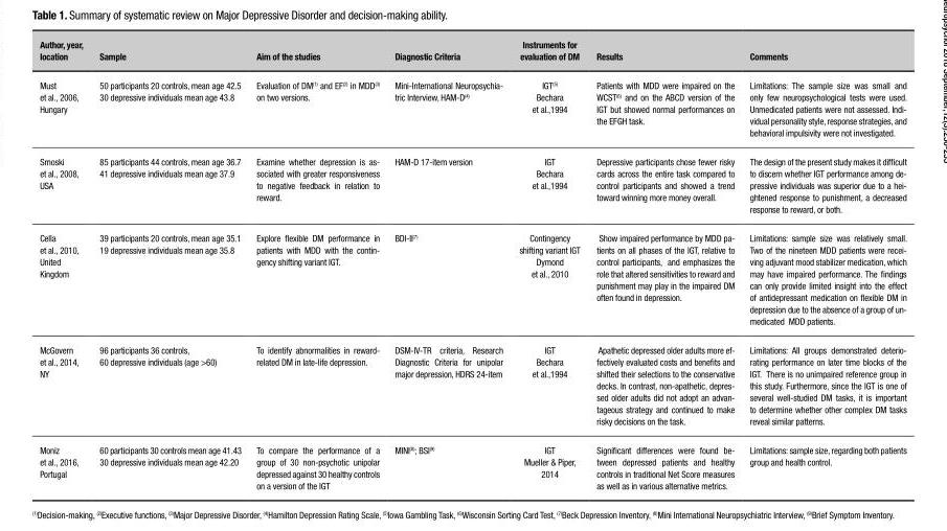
<table><thead><tr><td>Author, year, location</td><td>Sample</td><td>Aim of the studies</td><td>Diagnostic Criteria</td><td>Instruments for evaluation of DM</td><td>Results</td><td>Comments</td></tr></thead><tbody><tr><td>Must et al., 2006, Hungary</td><td>50 participants 20 controls, mean age 42.5 30 depressive individuals mean age 43.8</td><td>Evaluation of DM(1) and EF(2) in MDD(3) on two versions.</td><td>Mini-International Neuropsychia- tric Interview, HAM-D(4)</td><td>IGT(5) Bechara et al.,1994</td><td>Patients with MDD were impaired on the WCST(6) and on the ABCD version of the IGT but showed normal performances on the EFGH task.</td><td>Limitations: The sample size was small and only few neuropsychological tests were used. Unmedicated patients were not assessed. Indi- vidual personality style, response strategies, and behavioral impulsivity were not investigated.</td></tr><tr><td>Smoski et al., 2008, USA</td><td>85 participants 44 controls, mean age 36.7 41 depressive individuals mean age 37.9</td><td>Examine whether depression is as- sociated with greater responsiveness to negative feedback in relation to reward.</td><td>HAM-D 17-item version</td><td>IGT Bechara et al.,1994</td><td>Depressive participants chose fewer risky cards across the entire task compared to control participants and showed a trend toward winning more money overall.</td><td>The design of the present study makes it difficult to discern whether IGT performance among de- pressive individuals was superior due to a hei- ghtened response to punishment, a decreased response to reward, or both.</td></tr><tr><td>Cella et al., 2010, United Kingdom</td><td>39 participants 20 controls, mean age 35.1 19 depressive individuals mean age 35.8</td><td>Explore flexible DM performance in patients with MDD with the contin- gency shifting variant IGT.</td><td>BDI-II(7)</td><td>Contingency shifting variant IGT Dymond et al., 2010</td><td>Show impaired performance by MDD pa- tients on all phases of the IGT, relative to control participants, and emphasizes the role that altered sensitivities to reward and punishment may play in the impaired DM often found in depression.</td><td>Limitations: sample size was relatively small. Two of the nineteen MDD patients were recei- ving adjuvant mood stabilizer medication, which may have impaired performance. The findings can only provide limited insight into the effect of antidepressant medication on flexible DM in depression due to the absence of a group of un- medicated MDD patients.</td></tr><tr><td>McGovern et al., 2014, NY</td><td>96 participants 36 controls, 60 depressive individuals (age &gt;60)</td><td>To identify abnormalities in reward- related DM in late-life depression.</td><td>DSM-IV-TR criteria, Research Diagnostic Criteria for unipolar major depression, HDRS 24-item</td><td>IGT Bechara et al.,1994</td><td>Apathetic depressed older adults more ef- fectively evaluated costs and benefits and shifted their selections to the conservative decks. In contrast, non-apathetic, depres- sed older adults did not adopt an advan- tageous strategy and continued to make risky decisions on the task.</td><td>Limitations: All groups demonstrated deterio- rating performance on later time blocks of the IGT. There is no unimpaired reference group in this study. Furthermore, since the IGT is one of several well-studied DM tasks, it is important to determine whether other complex DM tasks reveal similar patterns.</td></tr><tr><td>Moniz et al., 2016, Portugal</td><td>60 participants 30 controls mean age 41.43 30 depressive individuals mean age 42.20</td><td>To compare the performance of a group of 30 non-psychotic unipolar depressed against 30 healthy controls on a version of the IGT</td><td>MINI(8); BSI(9)</td><td>IGT Mueller &amp; Piper, 2014</td><td>Significant differences were found be- tween depressed patients and healthy controls in traditional Net Score measures as well as in various alternative metrics.</td><td>Limitations: sample size, regarding both patients group and health control.</td></tr></tbody></table>